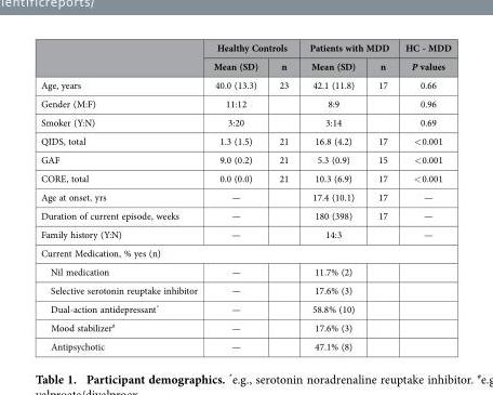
<table><thead><tr><td rowspan="2"></td><td colspan="2">Healthy Controls</td><td colspan="2">Patients with MDD</td><td rowspan="2">HC - MDD P values</td></tr><tr><td>Mean (SD)</td><td>n</td><td>Mean (SD)</td><td>n</td></tr></thead><tbody><tr><td>Age, years</td><td>40.0 (13.3)</td><td>23</td><td>42.1 (11.8)</td><td>17</td><td>0.66</td></tr><tr><td>Gender (M:F)</td><td>11:12</td><td></td><td>8:9</td><td></td><td>0.96</td></tr><tr><td>Smoker (Y:N)</td><td>3:20</td><td></td><td>3:14</td><td></td><td>0.69</td></tr><tr><td>QIDS, total</td><td>1.3 (1.5)</td><td>21</td><td>16.8 (4.2)</td><td>17</td><td>&lt; 0.001</td></tr><tr><td>GAF</td><td>9.0 (0.2)</td><td>21</td><td>5.3 (0.9)</td><td>15</td><td>&lt; 0.001</td></tr><tr><td>CORE, total</td><td>0.0 (0.0)</td><td>21</td><td>10.3 (6.9)</td><td>17</td><td>&lt; 0.001</td></tr><tr><td>Age at onset, yrs</td><td>—</td><td></td><td>17.4 (10.1)</td><td>17</td><td>—</td></tr><tr><td>Duration of current episode, weeks</td><td>—</td><td></td><td>180 (398)</td><td>17</td><td>—</td></tr><tr><td>Family history (Y:N)</td><td>—</td><td></td><td>14:3</td><td></td><td>—</td></tr><tr><td colspan="6">Current Medication, % yes (n)</td></tr><tr><td>Nil medication</td><td>—</td><td></td><td>11.7% (2)</td><td></td><td></td></tr><tr><td>Selective serotonin reuptake inhibitor</td><td>—</td><td></td><td>17.6% (3)</td><td></td><td></td></tr><tr><td>Dual-action antidepressant*</td><td>—</td><td></td><td>58.8% (10)</td><td></td><td></td></tr><tr><td>Mood stabilizer#</td><td>—</td><td></td><td>17.6% (3)</td><td></td><td></td></tr><tr><td>Antipsychotic</td><td>—</td><td></td><td>47.1% (8)</td><td></td><td></td></tr></tbody></table>